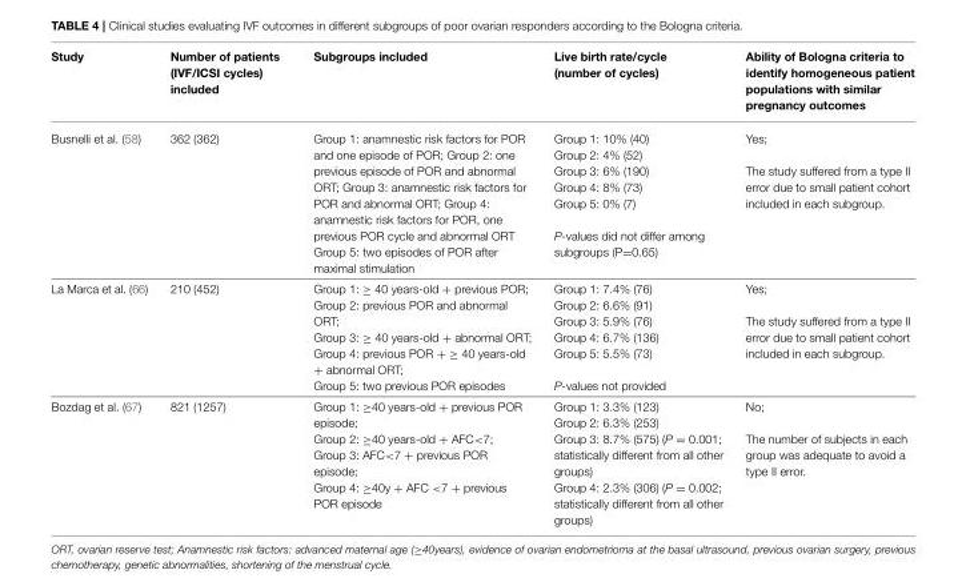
<table><thead><tr><td>Study</td><td>Number of patients (IVF/ICSI cycles) included</td><td>Subgroups included</td><td>Live birth rate/cycle (number of cycles)</td><td>Ability of Bologna criteria to identify homogeneous patient populations with similar pregnancy outcomes</td></tr></thead><tbody><tr><td>Busnelli et al. (58)</td><td>362 (362)</td><td>Group 1: anamnestic risk factors for POR and one episode of POR; Group 2: one previous episode of POR and abnormal ORT; Group 3: anamnestic risk factors for POR and abnormal ORT; Group 4: anamnestic risk factors for POR, one previous POR cycle and abnormal ORT Group 5: two episodes of POR after maximal stimulation</td><td>Group 1: 10% (40) Group 2: 4% (52) Group 3: 6% (190) Group 4: 8% (73) Group 5: 0% (7) P-values did not differ among subgroups (P=0.65)</td><td>Yes; The study suffered from a type II error due to small patient cohort included in each subgroup.</td></tr><tr><td>La Marca et al. (66)</td><td>210 (452)</td><td>Group 1: ≥ 40 years-old + previous POR; Group 2: previous POR and abnormal ORT; Group 3: ≥ 40 years-old + abnormal ORT; Group 4: previous POR + ≥ 40 years-old + abnormal ORT; Group 5: two previous POR episodes</td><td>Group 1: 7.4% (76) Group 2: 6.6% (91) Group 3: 5.9% (76) Group 4: 6.7% (136) Group 5: 5.5% (73) P-values not provided</td><td>Yes; The study suffered from a type II error due to small patient cohort included in each subgroup.</td></tr><tr><td>Bozdag et al. (67)</td><td>821 (1257)</td><td>Group 1: ≥40 years-old + previous POR episode; Group 2: ≥40 years-old + AFC&lt;7; Group 3: AFC&lt;7 + previous POR episode; Group 4: ≥40y + AFC &lt;7 + previous POR episode</td><td>Group 1: 3.3% (123) Group 2: 6.3% (253) Group 3: 8.7% (575) (P = 0.001; statistically different from all other groups) Group 4: 2.3% (306) (P = 0.002; statistically different from all other groups)</td><td>No; The number of subjects in each group was adequate to avoid a type II error.</td></tr></tbody></table>